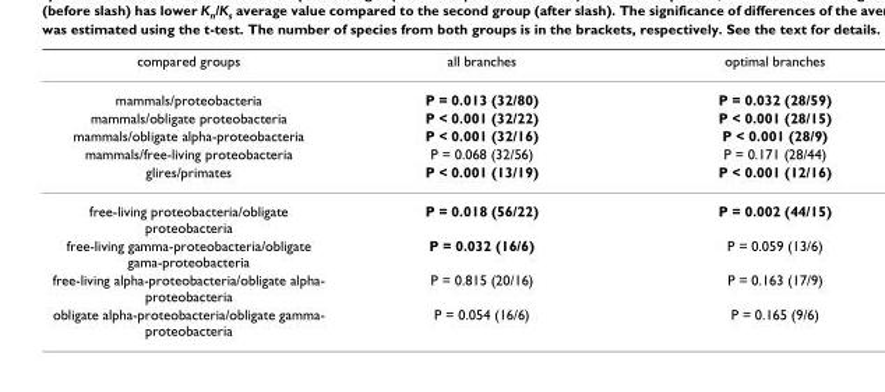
<table><thead><tr><td>compared groups</td><td>all branches</td><td>optimal branches</td></tr></thead><tbody><tr><td>mammals/proteobacteria</td><td>P = 0.013 (32/80)</td><td>P = 0.032 (28/59)</td></tr><tr><td>mammals/obligate proteobacteria</td><td>P &lt; 0.001 (32/22)</td><td>P &lt; 0.001 (28/15)</td></tr><tr><td>mammals/obligate alpha-proteobacteria</td><td>P &lt; 0.001 (32/16)</td><td>P &lt; 0.001 (28/9)</td></tr><tr><td>mammals/free-living proteobacteria</td><td>P = 0.068 (32/56)</td><td>P = 0.171 (28/44)</td></tr><tr><td>glires/primates</td><td>P &lt; 0.001 (13/19)</td><td>P &lt; 0.001 (12/16)</td></tr><tr><td>free-living proteobacteria/obligate proteobacteria</td><td>P = 0.018 (56/22)</td><td>P = 0.002 (44/15)</td></tr><tr><td>free-living gamma-proteobacteria/obligate gama-proteobacteria</td><td>P = 0.032 (16/6)</td><td>P = 0.059 (13/6)</td></tr><tr><td>free-living alpha-proteobacteria/obligate alpha- proteobacteria</td><td>P = 0.815 (20/16)</td><td>P = 0.163 (17/9)</td></tr><tr><td>obligate alpha-proteobacteria/obligate gamma- proteobacteria</td><td>P = 0.054 (16/6)</td><td>P = 0.165 (9/6)</td></tr></tbody></table>